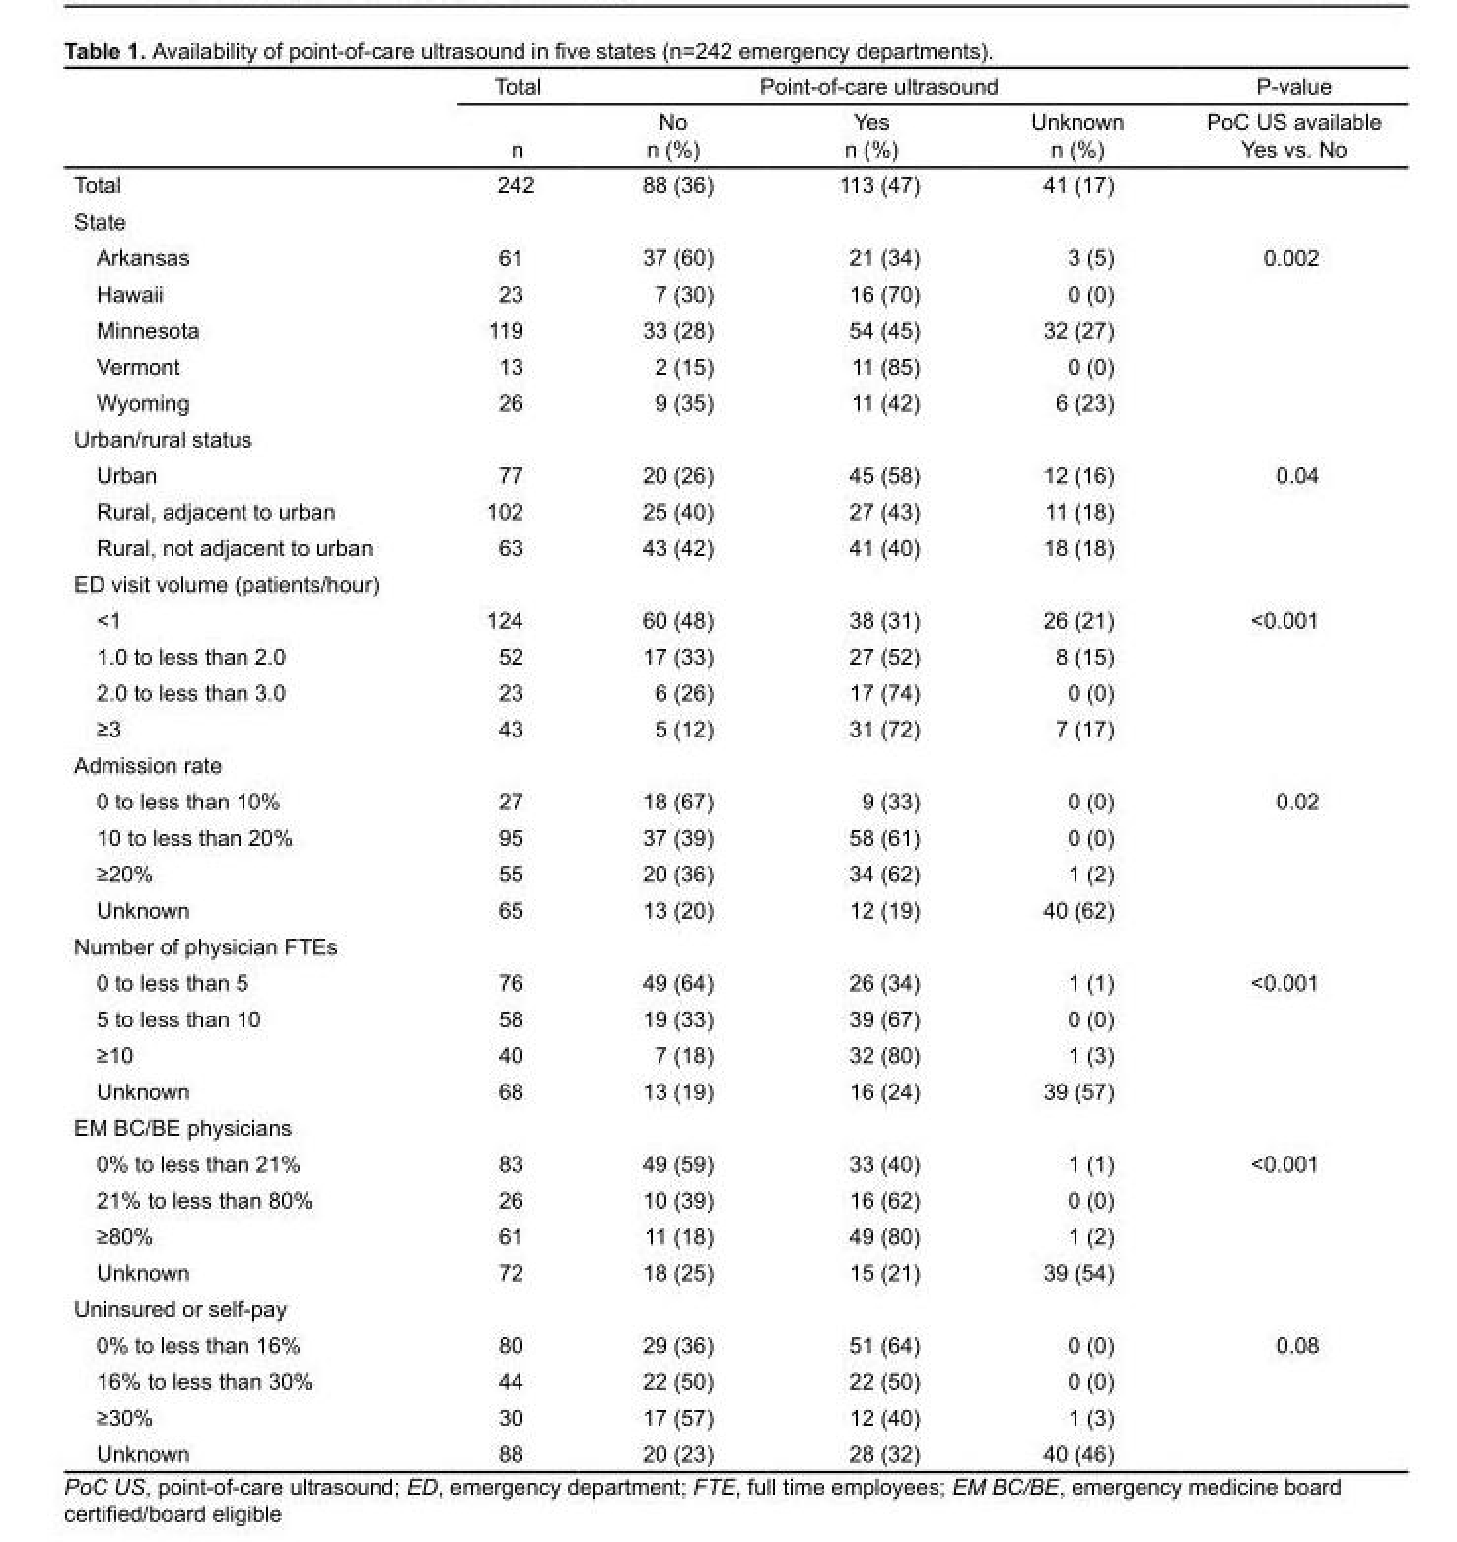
<table><thead><tr><td rowspan="2"></td><td rowspan="2">Total n</td><td colspan="3">Point-of-care ultrasound</td><td rowspan="2">P-value PoC US available Yes vs. No</td></tr><tr><td>No n (%)</td><td>Yes n (%)</td><td>Unknown n (%)</td></tr></thead><tbody><tr><td>Total</td><td>242</td><td>88 (36)</td><td>113 (47)</td><td>41 (17)</td><td></td></tr><tr><td colspan="6">State</td></tr><tr><td>Arkansas</td><td>61</td><td>37 (60)</td><td>21 (34)</td><td>3 (5)</td><td>0.002</td></tr><tr><td>Hawaii</td><td>23</td><td>7 (30)</td><td>16 (70)</td><td>0 (0)</td><td></td></tr><tr><td>Minnesota</td><td>119</td><td>33 (28)</td><td>54 (45)</td><td>32 (27)</td><td></td></tr><tr><td>Vermont</td><td>13</td><td>2 (15)</td><td>11 (85)</td><td>0 (0)</td><td></td></tr><tr><td>Wyoming</td><td>26</td><td>9 (35)</td><td>11 (42)</td><td>6 (23)</td><td></td></tr><tr><td colspan="6">Urban/rural status</td></tr><tr><td>Urban</td><td>77</td><td>20 (26)</td><td>45 (58)</td><td>12 (16)</td><td>0.04</td></tr><tr><td>Rural, adjacent to urban</td><td>102</td><td>25 (40)</td><td>27 (43)</td><td>11 (18)</td><td></td></tr><tr><td>Rural, not adjacent to urban</td><td>63</td><td>43 (42)</td><td>41 (40)</td><td>18 (18)</td><td></td></tr><tr><td colspan="6">ED visit volume (patients/hour)</td></tr><tr><td>&lt;1</td><td>124</td><td>60 (48)</td><td>38 (31)</td><td>26 (21)</td><td>&lt;0.001</td></tr><tr><td>1.0 to less than 2.0</td><td>52</td><td>17 (33)</td><td>27 (52)</td><td>8 (15)</td><td></td></tr><tr><td>2.0 to less than 3.0</td><td>23</td><td>6 (26)</td><td>17 (74)</td><td>0 (0)</td><td></td></tr><tr><td>≥3</td><td>43</td><td>5 (12)</td><td>31 (72)</td><td>7 (17)</td><td></td></tr><tr><td colspan="6">Admission rate</td></tr><tr><td>0 to less than 10%</td><td>27</td><td>18 (67)</td><td>9 (33)</td><td>0 (0)</td><td>0.02</td></tr><tr><td>10 to less than 20%</td><td>95</td><td>37 (39)</td><td>58 (61)</td><td>0 (0)</td><td></td></tr><tr><td>≥20%</td><td>55</td><td>20 (36)</td><td>34 (62)</td><td>1 (2)</td><td></td></tr><tr><td>Unknown</td><td>65</td><td>13 (20)</td><td>12 (19)</td><td>40 (62)</td><td></td></tr><tr><td colspan="6">Number of physician FTEs</td></tr><tr><td>0 to less than 5</td><td>76</td><td>49 (64)</td><td>26 (34)</td><td>1 (1)</td><td>&lt;0.001</td></tr><tr><td>5 to less than 10</td><td>58</td><td>19 (33)</td><td>39 (67)</td><td>0 (0)</td><td></td></tr><tr><td>≥10</td><td>40</td><td>7 (18)</td><td>32 (80)</td><td>1 (3)</td><td></td></tr><tr><td>Unknown</td><td>68</td><td>13 (19)</td><td>16 (24)</td><td>39 (57)</td><td></td></tr><tr><td colspan="6">EM BC/BE physicians</td></tr><tr><td>0% to less than 21%</td><td>83</td><td>49 (59)</td><td>33 (40)</td><td>1 (1)</td><td>&lt;0.001</td></tr><tr><td>21% to less than 80%</td><td>26</td><td>10 (39)</td><td>16 (62)</td><td>0 (0)</td><td></td></tr><tr><td>≥80%</td><td>61</td><td>11 (18)</td><td>49 (80)</td><td>1 (2)</td><td></td></tr><tr><td>Unknown</td><td>72</td><td>18 (25)</td><td>15 (21)</td><td>39 (54)</td><td></td></tr><tr><td colspan="6">Uninsured or self-pay</td></tr><tr><td>0% to less than 16%</td><td>80</td><td>29 (36)</td><td>51 (64)</td><td>0 (0)</td><td>0.08</td></tr><tr><td>16% to less than 30%</td><td>44</td><td>22 (50)</td><td>22 (50)</td><td>0 (0)</td><td></td></tr><tr><td>≥30%</td><td>30</td><td>17 (57)</td><td>12 (40)</td><td>1 (3)</td><td></td></tr><tr><td>Unknown</td><td>88</td><td>20 (23)</td><td>28 (32)</td><td>40 (46)</td><td></td></tr></tbody></table>